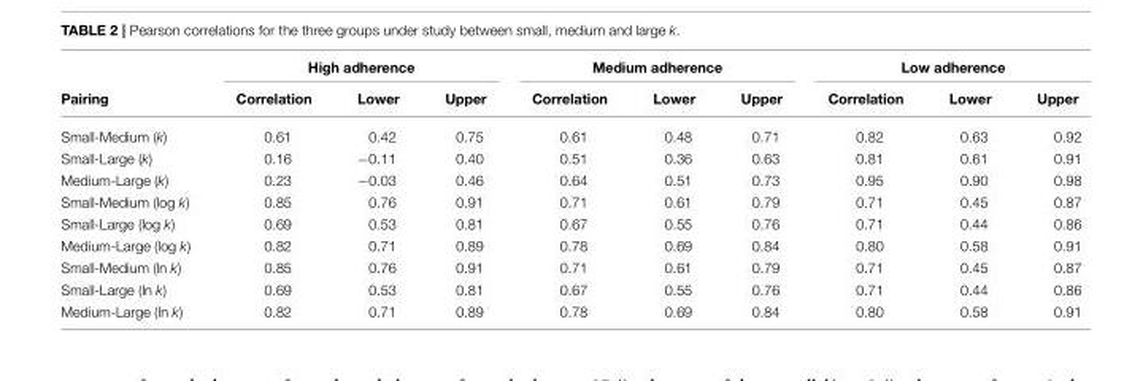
<table><thead><tr><td rowspan="2">Pairing</td><td colspan="3">High adherence</td><td colspan="3">Medium adherence</td><td colspan="3">Low adherence</td></tr><tr><td>Correlation</td><td>Lower</td><td>Upper</td><td>Correlation</td><td>Lower</td><td>Upper</td><td>Correlation</td><td>Lower</td><td>Upper</td></tr></thead><tbody><tr><td>Small-Medium (k)</td><td>0.61</td><td>0.42</td><td>0.75</td><td>0.61</td><td>0.48</td><td>0.71</td><td>0.82</td><td>0.63</td><td>0.92</td></tr><tr><td>Small-Large (k)</td><td>0.16</td><td>−0.11</td><td>0.40</td><td>0.51</td><td>0.36</td><td>0.63</td><td>0.81</td><td>0.61</td><td>0.91</td></tr><tr><td>Medium-Large (k)</td><td>0.23</td><td>−0.03</td><td>0.46</td><td>0.64</td><td>0.51</td><td>0.73</td><td>0.95</td><td>0.90</td><td>0.98</td></tr><tr><td>Small-Medium (log k)</td><td>0.85</td><td>0.76</td><td>0.91</td><td>0.71</td><td>0.61</td><td>0.79</td><td>0.71</td><td>0.45</td><td>0.87</td></tr><tr><td>Small-Large (log k)</td><td>0.69</td><td>0.53</td><td>0.81</td><td>0.67</td><td>0.55</td><td>0.76</td><td>0.71</td><td>0.44</td><td>0.86</td></tr><tr><td>Medium-Large (log k)</td><td>0.82</td><td>0.71</td><td>0.89</td><td>0.78</td><td>0.69</td><td>0.84</td><td>0.80</td><td>0.58</td><td>0.91</td></tr><tr><td>Small-Medium (ln k)</td><td>0.85</td><td>0.76</td><td>0.91</td><td>0.71</td><td>0.61</td><td>0.79</td><td>0.71</td><td>0.45</td><td>0.87</td></tr><tr><td>Small-Large (ln k)</td><td>0.69</td><td>0.53</td><td>0.81</td><td>0.67</td><td>0.55</td><td>0.76</td><td>0.71</td><td>0.44</td><td>0.86</td></tr><tr><td>Medium-Large (ln k)</td><td>0.82</td><td>0.71</td><td>0.89</td><td>0.78</td><td>0.69</td><td>0.84</td><td>0.80</td><td>0.58</td><td>0.91</td></tr></tbody></table>